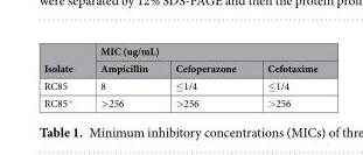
<table><thead><tr><td rowspan="2">Isolate</td><td colspan="3">MIC (ug/mL)</td></tr><tr><td>Ampicillin</td><td>Cefoperazone</td><td>Cefotaxime</td></tr></thead><tbody><tr><td>RC85</td><td>8</td><td>≤1/4</td><td>≤1/4</td></tr><tr><td>RC85<sup>+</sup></td><td>&gt;256</td><td>&gt;256</td><td>&gt;256</td></tr></tbody></table>